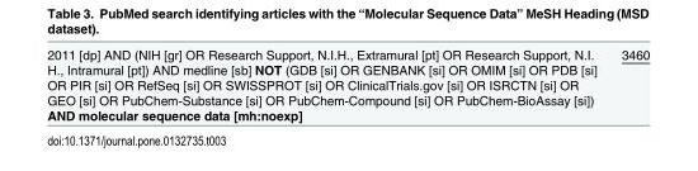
<table><tbody><tr><td>2011 [dp] AND (NIH [gr] OR Research Support, N.I.H., Extramural [pt] OR Research Support, N.I. H., Intramural [pt]) AND medline [sb] NOT (GDB [si] OR GENBANK [si] OR OMIM [si] OR PDB [si] OR PIR [si] OR RefSeq [si] OR SWISSPROT [si] OR ClinicalTrials.gov [si] OR ISRCTN [si] OR GEO [si] OR PubChem-Substance [si] OR PubChem-Compound [si] OR PubChem-BioAssay [si]) AND molecular sequence data [mh:noexp]</td><td>3460</td></tr></tbody></table>